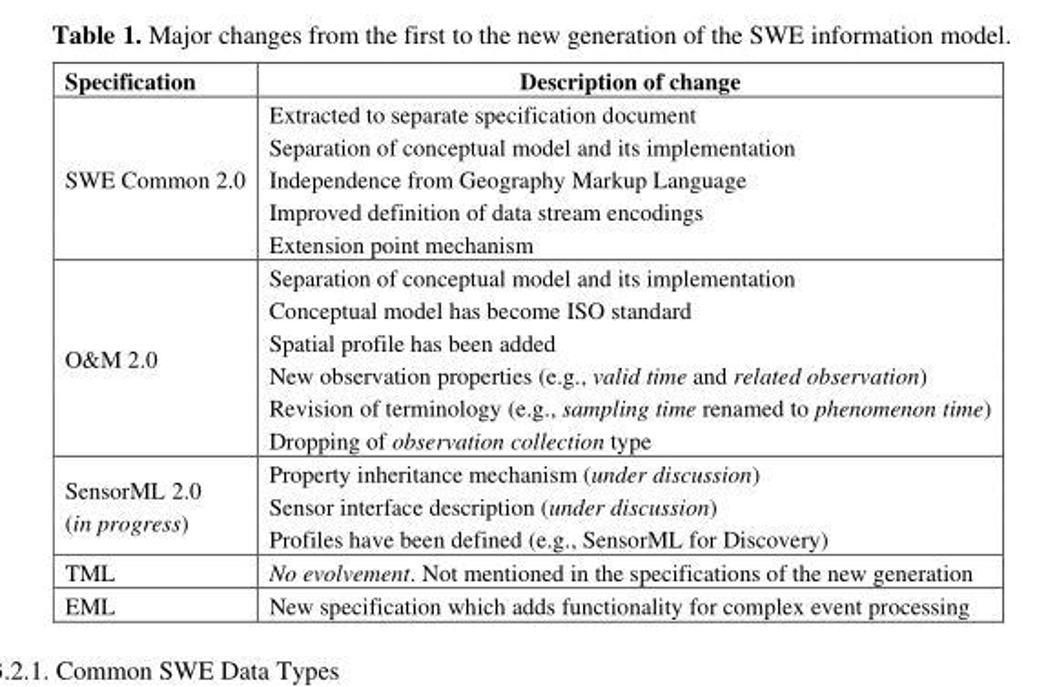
<table><thead><tr><td>Specification</td><td>Description of change</td></tr></thead><tbody><tr><td>SWE Common 2.0</td><td>Extracted to separate specification document Separation of conceptual model and its implementation Independence from Geography Markup Language Improved definition of data stream encodings Extension point mechanism</td></tr><tr><td>O&amp;M 2.0</td><td>Separation of conceptual model and its implementation Conceptual model has become ISO standard Spatial profile has been added New observation properties (e.g., valid time and related observation) Revision of terminology (e.g., sampling time renamed to phenomenon time) Dropping of observation collection type</td></tr><tr><td>SensorML 2.0 (in progress)</td><td>Property inheritance mechanism (under discussion) Sensor interface description (under discussion) Profiles have been defined (e.g., SensorML for Discovery)</td></tr><tr><td>TML</td><td>No evolvement. Not mentioned in the specifications of the new generation</td></tr><tr><td>EML</td><td>New specification which adds functionality for complex event processing</td></tr></tbody></table>